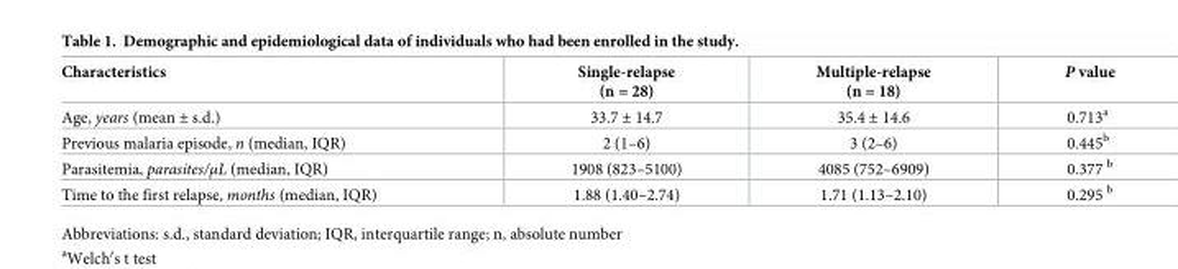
<table><thead><tr><td>Characteristics</td><td>Single-relapse (n = 28)</td><td>Multiple-relapse (n = 18)</td><td>P value</td></tr></thead><tbody><tr><td>Age, years (mean ± s.d.)</td><td>33.7 ± 14.7</td><td>35.4 ± 14.6</td><td>0.713<sup>a</sup></td></tr><tr><td>Previous malaria episode, n (median, IQR)</td><td>2 (1–6)</td><td>3 (2–6)</td><td>0.445<sup>b</sup></td></tr><tr><td>Parasitemia, parasites/μL (median, IQR)</td><td>1908 (823–5100)</td><td>4085 (752–6909)</td><td>0.377 <sup>b</sup></td></tr><tr><td>Time to the first relapse, months (median, IQR)</td><td>1.88 (1.40–2.74)</td><td>1.71 (1.13–2.10)</td><td>0.295 <sup>b</sup></td></tr></tbody></table>